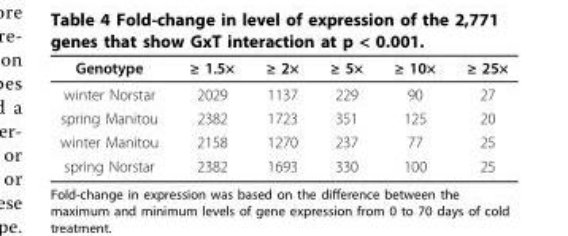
<table><thead><tr><td>Genotype</td><td>≥ 1.5×</td><td>≥ 2×</td><td>≥ 5×</td><td>≥ 10×</td><td>≥ 25×</td></tr></thead><tbody><tr><td>winter Norstar</td><td>2029</td><td>1137</td><td>229</td><td>90</td><td>27</td></tr><tr><td>spring Manitou</td><td>2382</td><td>1723</td><td>351</td><td>125</td><td>20</td></tr><tr><td>winter Manitou</td><td>2158</td><td>1270</td><td>237</td><td>77</td><td>25</td></tr><tr><td>spring Norstar</td><td>2382</td><td>1693</td><td>330</td><td>100</td><td>25</td></tr></tbody></table>